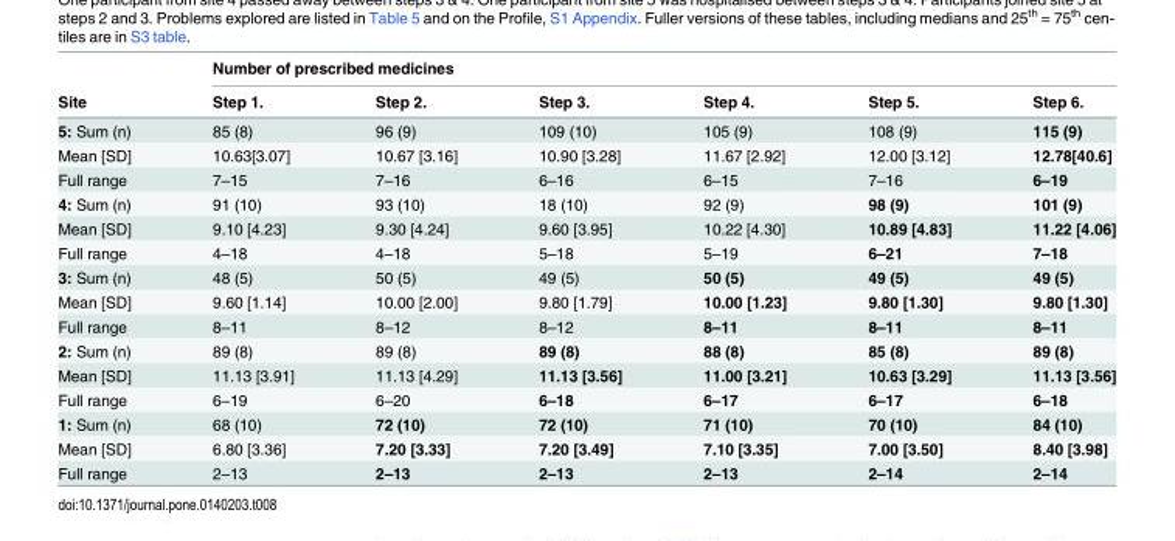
<table><thead><tr><td rowspan="2">Site</td><td colspan="6">Number of prescribed medicines</td></tr><tr><td>Step 1.</td><td>Step 2.</td><td>Step 3.</td><td>Step 4.</td><td>Step 5.</td><td>Step 6.</td></tr></thead><tbody><tr><td>5: Sum (n)</td><td>85 (8)</td><td>96 (9)</td><td>109 (10)</td><td>105 (9)</td><td>108 (9)</td><td>115 (9)</td></tr><tr><td>Mean [SD]</td><td>10.63[3.07]</td><td>10.67 [3.16]</td><td>10.90 [3.28]</td><td>11.67 [2.92]</td><td>12.00 [3.12]</td><td>12.78[40.6]</td></tr><tr><td>Full range</td><td>7–15</td><td>7–16</td><td>6–16</td><td>6–15</td><td>7–16</td><td>6–19</td></tr><tr><td>4: Sum (n)</td><td>91 (10)</td><td>93 (10)</td><td>18 (10)</td><td>92 (9)</td><td>98 (9)</td><td>101 (9)</td></tr><tr><td>Mean [SD]</td><td>9.10 [4.23]</td><td>9.30 [4.24]</td><td>9.60 [3.95]</td><td>10.22 [4.30]</td><td>10.89 [4.83]</td><td>11.22 [4.06]</td></tr><tr><td>Full range</td><td>4–18</td><td>4–18</td><td>5–18</td><td>5–19</td><td>6–21</td><td>7–18</td></tr><tr><td>3: Sum (n)</td><td>48 (5)</td><td>50 (5)</td><td>49 (5)</td><td>50 (5)</td><td>49 (5)</td><td>49 (5)</td></tr><tr><td>Mean [SD]</td><td>9.60 [1.14]</td><td>10.00 [2.00]</td><td>9.80 [1.79]</td><td>10.00 [1.23]</td><td>9.80 [1.30]</td><td>9.80 [1.30]</td></tr><tr><td>Full range</td><td>8–11</td><td>8–12</td><td>8–12</td><td>8–11</td><td>8–11</td><td>8–11</td></tr><tr><td>2: Sum (n)</td><td>89 (8)</td><td>89 (8)</td><td>89 (8)</td><td>88 (8)</td><td>85 (8)</td><td>89 (8)</td></tr><tr><td>Mean [SD]</td><td>11.13 [3.91]</td><td>11.13 [4.29]</td><td>11.13 [3.56]</td><td>11.00 [3.21]</td><td>10.63 [3.29]</td><td>11.13 [3.56]</td></tr><tr><td>Full range</td><td>6–19</td><td>6–20</td><td>6–18</td><td>6–17</td><td>6–17</td><td>6–18</td></tr><tr><td>1: Sum (n)</td><td>68 (10)</td><td>72 (10)</td><td>72 (10)</td><td>71 (10)</td><td>70 (10)</td><td>84 (10)</td></tr><tr><td>Mean [SD]</td><td>6.80 [3.36]</td><td>7.20 [3.33]</td><td>7.20 [3.49]</td><td>7.10 [3.35]</td><td>7.00 [3.50]</td><td>8.40 [3.98]</td></tr><tr><td>Full range</td><td>2–13</td><td>2–13</td><td>2–13</td><td>2–13</td><td>2–14</td><td>2–14</td></tr></tbody></table>